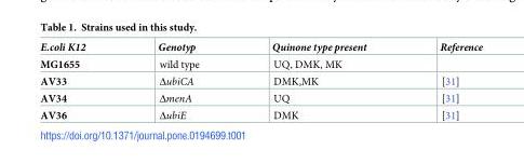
<table><thead><tr><td>E.coli K12</td><td>Genotyp</td><td>Quinone type present</td><td>Reference</td></tr></thead><tbody><tr><td>MG1655</td><td>wild type</td><td>UQ, DMK, MK</td><td></td></tr><tr><td>AV33</td><td>ΔubiCA</td><td>DMK,MK</td><td>[31]</td></tr><tr><td>AV34</td><td>ΔmenA</td><td>UQ</td><td>[31]</td></tr><tr><td>AV36</td><td>ΔubiE</td><td>DMK</td><td>[31]</td></tr></tbody></table>